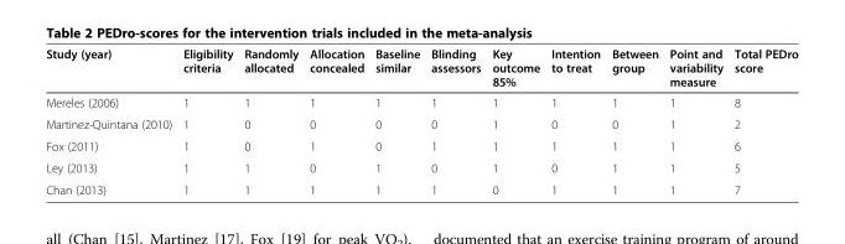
<table><thead><tr><td>Study (year)</td><td>Eligibility criteria</td><td>Randomly allocated</td><td>Allocation concealed</td><td>Baseline similar</td><td>Blinding assessors</td><td>Key outcome 85%</td><td>Intention to treat</td><td>Between group</td><td>Point and variability measure</td><td>Total PEDro score</td></tr></thead><tbody><tr><td>Mereles (2006)</td><td>1</td><td>1</td><td>1</td><td>1</td><td>1</td><td>1</td><td>1</td><td>1</td><td>1</td><td>8</td></tr><tr><td>Martinez-Quintana (2010)</td><td>1</td><td>0</td><td>0</td><td>0</td><td>0</td><td>1</td><td>0</td><td>0</td><td>1</td><td>2</td></tr><tr><td>Fox (2011)</td><td>1</td><td>0</td><td>1</td><td>0</td><td>1</td><td>1</td><td>1</td><td>1</td><td>1</td><td>6</td></tr><tr><td>Ley (2013)</td><td>1</td><td>1</td><td>0</td><td>1</td><td>0</td><td>1</td><td>0</td><td>1</td><td>1</td><td>5</td></tr><tr><td>Chan (2013)</td><td>1</td><td>1</td><td>1</td><td>1</td><td>1</td><td>0</td><td>1</td><td>1</td><td>1</td><td>7</td></tr></tbody></table>